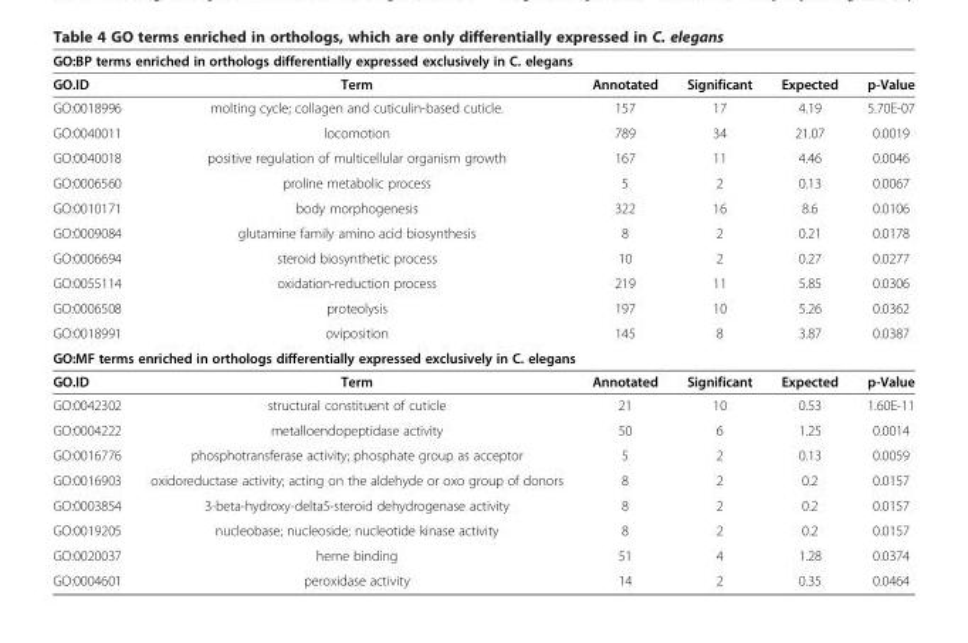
<table><thead><tr><td colspan="6">GO:BP terms enriched in orthologs differentially expressed exclusively in C. elegans</td></tr><tr><td>GO.ID</td><td>Term</td><td>Annotated</td><td>Significant</td><td>Expected</td><td>p-Value</td></tr></thead><tbody><tr><td>GO:0018996</td><td>molting cycle; collagen and cuticulin-based cuticle.</td><td>157</td><td>17</td><td>4.19</td><td>5.70E-07</td></tr><tr><td>GO:0040011</td><td>locomotion</td><td>789</td><td>34</td><td>21.07</td><td>0.0019</td></tr><tr><td>GO:0040018</td><td>positive regulation of multicellular organism growth</td><td>167</td><td>11</td><td>4.46</td><td>0.0046</td></tr><tr><td>GO:0006560</td><td>proline metabolic process</td><td>5</td><td>2</td><td>0.13</td><td>0.0067</td></tr><tr><td>GO:0010171</td><td>body morphogenesis</td><td>322</td><td>16</td><td>8.6</td><td>0.0106</td></tr><tr><td>GO:0009084</td><td>glutamine family amino acid biosynthesis</td><td>8</td><td>2</td><td>0.21</td><td>0.0178</td></tr><tr><td>GO:0006694</td><td>steroid biosynthetic process</td><td>10</td><td>2</td><td>0.27</td><td>0.0277</td></tr><tr><td>GO:0055114</td><td>oxidation-reduction process</td><td>219</td><td>11</td><td>5.85</td><td>0.0306</td></tr><tr><td>GO:0006508</td><td>proteolysis</td><td>197</td><td>10</td><td>5.26</td><td>0.0362</td></tr><tr><td>GO:0018991</td><td>oviposition</td><td>145</td><td>8</td><td>3.87</td><td>0.0387</td></tr><tr><td colspan="6">GO:MF terms enriched in orthologs differentially expressed exclusively in C. elegans</td></tr><tr><td>GO.ID</td><td>Term</td><td>Annotated</td><td>Significant</td><td>Expected</td><td>p-Value</td></tr><tr><td>GO:0042302</td><td>structural constituent of cuticle</td><td>21</td><td>10</td><td>0.53</td><td>1.60E-11</td></tr><tr><td>GO:0004222</td><td>metalloendopeptidase activity</td><td>50</td><td>6</td><td>1.25</td><td>0.0014</td></tr><tr><td>GO:0016776</td><td>phosphotransferase activity; phosphate group as acceptor</td><td>5</td><td>2</td><td>0.13</td><td>0.0059</td></tr><tr><td>GO:0016903</td><td>oxidoreductase activity; acting on the aldehyde or oxo group of donors</td><td>8</td><td>2</td><td>0.2</td><td>0.0157</td></tr><tr><td>GO:0003854</td><td>3-beta-hydroxy-delta5-steroid dehydrogenase activity</td><td>8</td><td>2</td><td>0.2</td><td>0.0157</td></tr><tr><td>GO:0019205</td><td>nucleobase; nucleoside; nucleotide kinase activity</td><td>8</td><td>2</td><td>0.2</td><td>0.0157</td></tr><tr><td>GO:0020037</td><td>heme binding</td><td>51</td><td>4</td><td>1.28</td><td>0.0374</td></tr><tr><td>GO:0004601</td><td>peroxidase activity</td><td>14</td><td>2</td><td>0.35</td><td>0.0464</td></tr></tbody></table>